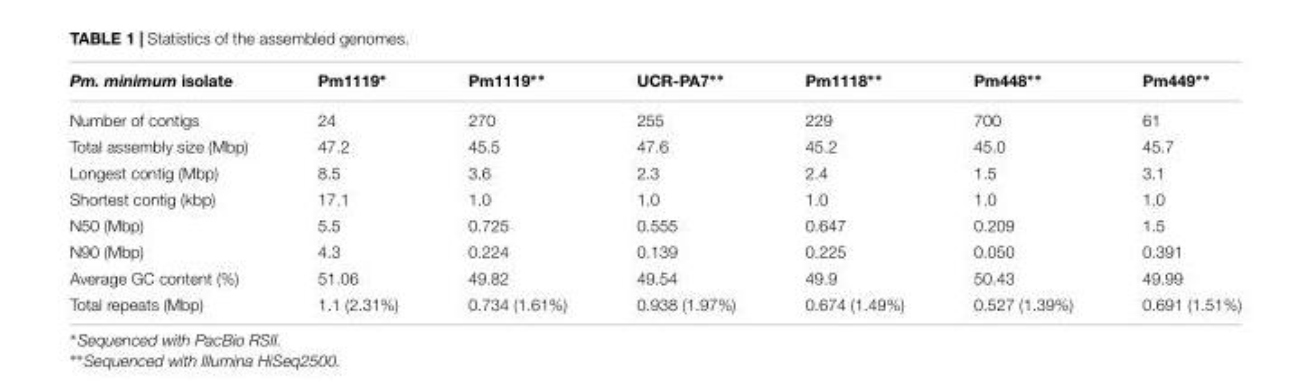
<table><thead><tr><td>Pm. minimum isolate</td><td>Pm1119∗</td><td>Pm1119∗∗</td><td>UCR-PA7∗∗</td><td>Pm1118∗∗</td><td>Pm448∗∗</td><td>Pm449∗∗</td></tr></thead><tbody><tr><td>Number of contigs</td><td>24</td><td>270</td><td>255</td><td>229</td><td>700</td><td>61</td></tr><tr><td>Total assembly size (Mbp)</td><td>47.2</td><td>45.5</td><td>47.6</td><td>45.2</td><td>45.0</td><td>45.7</td></tr><tr><td>Longest contig (Mbp)</td><td>8.5</td><td>3.6</td><td>2.3</td><td>2.4</td><td>1.5</td><td>3.1</td></tr><tr><td>Shortest contig (kbp)</td><td>17.1</td><td>1.0</td><td>1.0</td><td>1.0</td><td>1.0</td><td>1.0</td></tr><tr><td>N50 (Mbp)</td><td>5.5</td><td>0.725</td><td>0.555</td><td>0.647</td><td>0.209</td><td>1.5</td></tr><tr><td>N90 (Mbp)</td><td>4.3</td><td>0.224</td><td>0.139</td><td>0.225</td><td>0.050</td><td>0.391</td></tr><tr><td>Average GC content (%)</td><td>51.06</td><td>49.82</td><td>49.54</td><td>49.9</td><td>50.43</td><td>49.99</td></tr><tr><td>Total repeats (Mbp)</td><td>1.1 (2.31%)</td><td>0.734 (1.61%)</td><td>0.938 (1.97%)</td><td>0.674 (1.49%)</td><td>0.527 (1.39%)</td><td>0.691 (1.51%)</td></tr></tbody></table>